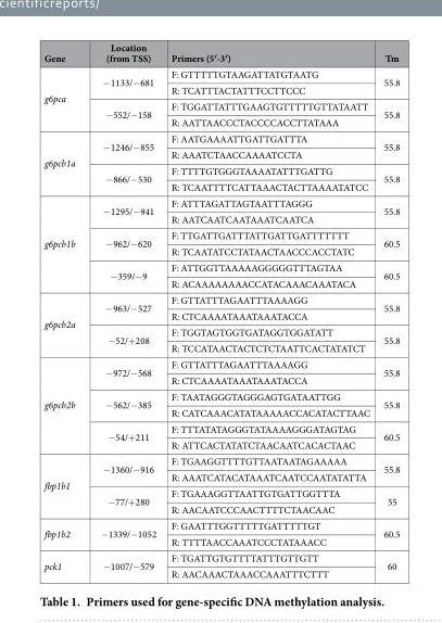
<table><thead><tr><td>Gene</td><td>Location (from TSS)</td><td>Primers (5′-3′)</td><td>Tm</td></tr></thead><tbody><tr><td rowspan="4">g6pca</td><td rowspan="2">− 1133/− 681</td><td>F: GTTTTTGTAAGATTATGTAATG</td><td rowspan="2">55.8</td></tr><tr><td>R: TCATTTACTATTTCCTTCCC</td></tr><tr><td rowspan="2">− 552/− 158</td><td>F: TGGATTATTTGAAGTGTTTTTGTTATAATT</td><td rowspan="2">55.8</td></tr><tr><td>R: AATTAACCCTACCCCACCTTATAAA</td></tr><tr><td rowspan="4">g6pcb1a</td><td rowspan="2">− 1246/− 855</td><td>F: AATGAAAATTGATTGATTTA</td><td rowspan="2">55.8</td></tr><tr><td>R: AAATCTAACCAAAATCCTA</td></tr><tr><td rowspan="2">− 866/− 530</td><td>F: TTTTGTGGGTAAAATATTTGATTG</td><td rowspan="2">55.8</td></tr><tr><td>R: TCAATTTTCATTAAACTACTTAAAATATCC</td></tr><tr><td rowspan="6">g6pcb1b</td><td rowspan="2">− 1295/− 941</td><td>F: ATTTAGATTAGTAATTTAGGG</td><td rowspan="2">55.8</td></tr><tr><td>R: AATCAATCAATAAATCAATCA</td></tr><tr><td rowspan="2">− 962/− 620</td><td>F: TTGATTGATTTATTGATTGATTTTTTT</td><td rowspan="2">60.5</td></tr><tr><td>R: TCAATATCCTATAACTAACCCACCTATC</td></tr><tr><td rowspan="2">− 359/− 9</td><td>F: ATTGGTTAAAAAGGGGGTTTAGTAA</td><td rowspan="2">60.5</td></tr><tr><td>R: ACAAAAAAAACCATACAAACAAATACA</td></tr><tr><td rowspan="4">g6pcb2a</td><td rowspan="2">− 963/− 527</td><td>F: GTTATTTAGAATTTAAAAGG</td><td rowspan="2">55.8</td></tr><tr><td>R: CTCAAAATAAATAAATACCA</td></tr><tr><td rowspan="2">− 52/+ 208</td><td>F: TGGTAGTGGTGATAGGTGGATATT</td><td rowspan="2">55.8</td></tr><tr><td>R: TCCATAACTACTCTCTAATTCACTATATCT</td></tr><tr><td rowspan="6">g6pcb2b</td><td rowspan="2">− 972/− 568</td><td>F: GTTATTTAGAATTTAAAAGG</td><td rowspan="2">55.8</td></tr><tr><td>R: CTCAAAATAAATAAATACCA</td></tr><tr><td rowspan="2">− 562/− 385</td><td>F: TAATAGGGTAGGGAGTGATAATTGG</td><td rowspan="2">55.8</td></tr><tr><td>R: CATCAAACATATAAAAACCACATACTTAAC</td></tr><tr><td rowspan="2">− 54/+ 211</td><td>F: TTTATATAGGGTATAAAAGGGATAGTAG</td><td rowspan="2">60.5</td></tr><tr><td>R: ATTCACTATATCTAACAATCACACTAAC</td></tr><tr><td rowspan="4">fbp1b1</td><td rowspan="2">− 1360/− 916</td><td>F: TGAAGGTTTTGTTAATAATAGAAAAA</td><td rowspan="2">55.8</td></tr><tr><td>R: AAATCATACATAAATCAATCCAATATATTA</td></tr><tr><td rowspan="2">− 77/+ 280</td><td>F: TGAAAGGTTAATTGTGATTGGTTTA</td><td rowspan="2">55</td></tr><tr><td>R: AACAATCCCAACTTTTCTAACAAC</td></tr><tr><td rowspan="2">fbp1b2</td><td rowspan="2">− 1339/− 1052</td><td>F: GAATTTGGTTTTTGATTTTTGT</td><td rowspan="2">60.5</td></tr><tr><td>R: TTTTAACCAAATCCCTATAAACC</td></tr><tr><td rowspan="2">pck1</td><td rowspan="2">− 1007/− 579</td><td>F: TGATTGTGTTTTATTTGTTGTT</td><td rowspan="2">60</td></tr><tr><td>R: AACAAACTAAACCAAATTTCTTT</td></tr></tbody></table>